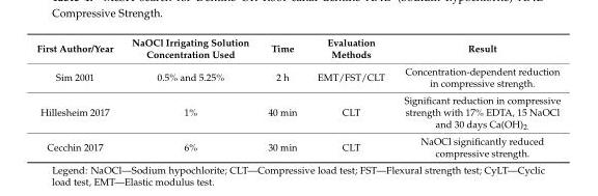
<table><thead><tr><td>First Author/Year</td><td>NaOCl Irrigating Solution Concentration Used</td><td>Time</td><td>Evaluation Methods</td><td>Result</td></tr></thead><tbody><tr><td>Sim 2001</td><td>0.5% and 5.25%</td><td>2 h</td><td>EMT/FST/CLT</td><td>Concentration-dependent reduction in compressive strength.</td></tr><tr><td>Hillesheim 2017</td><td>1%</td><td>40 min</td><td>CLT</td><td>Significant reduction in compressive strength with 17% EDTA, 15 NaOCl and 30 days Ca(OH)<sub>2.</sub></td></tr><tr><td>Cecchin 2017</td><td>6%</td><td>30 min</td><td>CLT</td><td>NaOCl significantly reduced compressive strength.</td></tr></tbody></table>